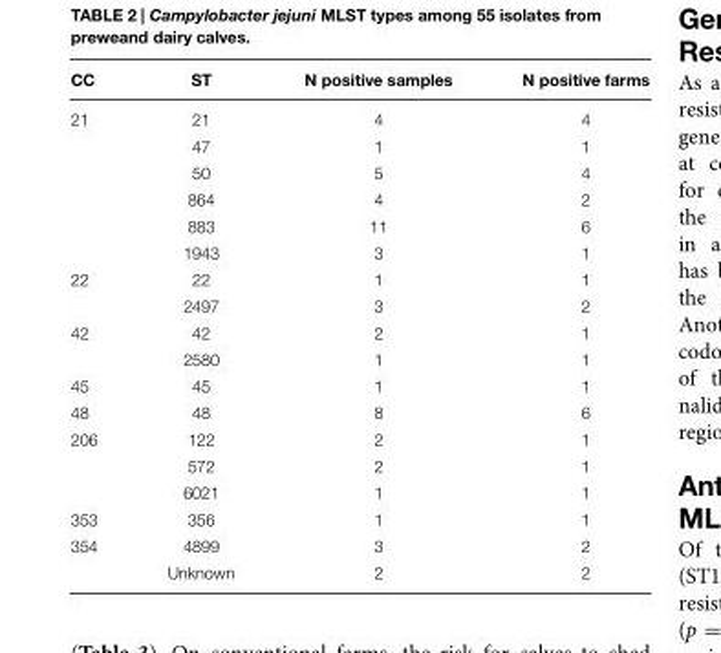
<table><thead><tr><td>CC</td><td>ST</td><td>N positive samples</td><td>N positive farms</td></tr></thead><tbody><tr><td rowspan="6">21</td><td>21</td><td>4</td><td>4</td></tr><tr><td>47</td><td>1</td><td>1</td></tr><tr><td>50</td><td>5</td><td>4</td></tr><tr><td>864</td><td>4</td><td>2</td></tr><tr><td>883</td><td>11</td><td>6</td></tr><tr><td>1943</td><td>3</td><td>1</td></tr><tr><td rowspan="2">22</td><td>22</td><td>1</td><td>1</td></tr><tr><td>2497</td><td>3</td><td>2</td></tr><tr><td rowspan="2">42</td><td>42</td><td>2</td><td>1</td></tr><tr><td>2580</td><td>1</td><td>1</td></tr><tr><td>45</td><td>45</td><td>1</td><td>1</td></tr><tr><td>48</td><td>48</td><td>8</td><td>6</td></tr><tr><td rowspan="3">206</td><td>122</td><td>2</td><td>1</td></tr><tr><td>572</td><td>2</td><td>1</td></tr><tr><td>6021</td><td>1</td><td>1</td></tr><tr><td>353</td><td>356</td><td>1</td><td>1</td></tr><tr><td rowspan="2">354</td><td>4899</td><td>3</td><td>2</td></tr><tr><td>Unknown</td><td>2</td><td>2</td></tr></tbody></table>